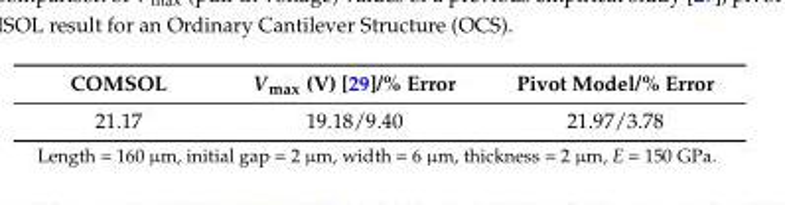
<table><thead><tr><td>COMSOL</td><td>V<sub>max</sub> (V) [29]/% Error</td><td>Pivot Model/% Error</td></tr></thead><tbody><tr><td>21.17</td><td>19.18/9.40</td><td>21.97/3.78</td></tr></tbody></table>